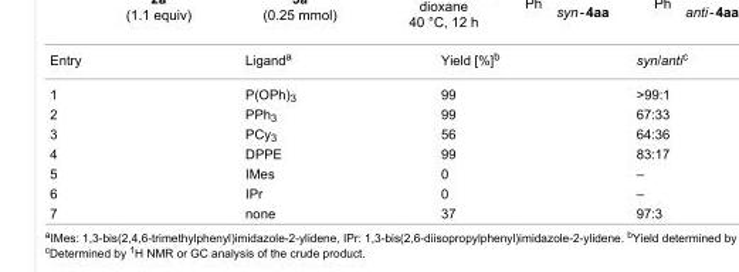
<table><tbody><tr><td>Entry</td><td>Ligand<sup>a</sup></td><td>Yield [%]<sup>b</sup></td><td>syn/anti<sup>c</sup></td></tr><tr><td>1</td><td>P(OPh)<sub>3</sub></td><td>99</td><td>&gt;99:1</td></tr><tr><td>2</td><td>PPh<sub>3</sub></td><td>99</td><td>67:33</td></tr><tr><td>3</td><td>PCy<sub>3</sub></td><td>56</td><td>64:36</td></tr><tr><td>4</td><td>DPPE</td><td>99</td><td>83:17</td></tr><tr><td>5</td><td>IMes</td><td>0</td><td>–</td></tr><tr><td>6</td><td>IPr</td><td>0</td><td>–</td></tr><tr><td>7</td><td>none</td><td>37</td><td>97:3</td></tr></tbody></table>